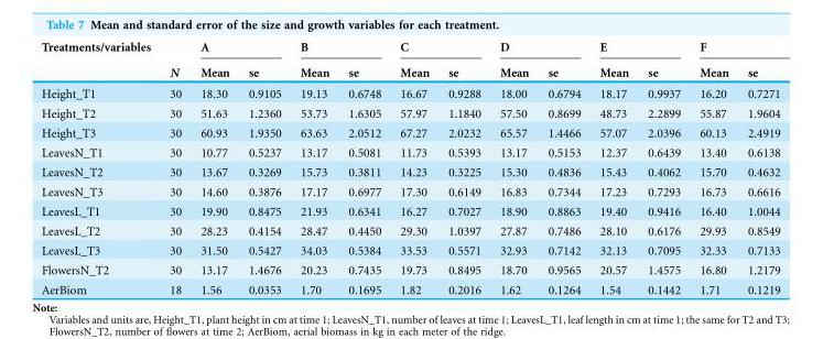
<table><thead><tr><td rowspan="2">Treatments/variables</td><td rowspan="2">N</td><td colspan="2">A</td><td colspan="2">B</td><td colspan="2">C</td><td colspan="2">D</td><td colspan="2">E</td><td colspan="2">F</td></tr><tr><td>Mean</td><td>se</td><td>Mean</td><td>se</td><td>Mean</td><td>se</td><td>Mean</td><td>se</td><td>Mean</td><td>se</td><td>Mean</td><td>se</td></tr></thead><tbody><tr><td>Height_T1</td><td>30</td><td>18.30</td><td>0.9105</td><td>19.13</td><td>0.6748</td><td>16.67</td><td>0.9288</td><td>18.00</td><td>0.6794</td><td>18.17</td><td>0.9937</td><td>16.20</td><td>0.7271</td></tr><tr><td>Height_T2</td><td>30</td><td>51.63</td><td>1.2360</td><td>53.73</td><td>1.6305</td><td>57.97</td><td>1.1840</td><td>57.50</td><td>0.8699</td><td>48.73</td><td>2.2899</td><td>55.87</td><td>1.9604</td></tr><tr><td>Height_T3</td><td>30</td><td>60.93</td><td>1.9350</td><td>63.63</td><td>2.0512</td><td>67.27</td><td>2.0232</td><td>65.57</td><td>1.4466</td><td>57.07</td><td>2.0396</td><td>60.13</td><td>2.4919</td></tr><tr><td>LeavesN_T1</td><td>30</td><td>10.77</td><td>0.5237</td><td>13.17</td><td>0.5081</td><td>11.73</td><td>0.5393</td><td>13.17</td><td>0.5153</td><td>12.37</td><td>0.6439</td><td>13.40</td><td>0.6138</td></tr><tr><td>LeavesN_T2</td><td>30</td><td>13.67</td><td>0.3269</td><td>15.73</td><td>0.3811</td><td>14.23</td><td>0.3225</td><td>15.30</td><td>0.4836</td><td>15.43</td><td>0.4062</td><td>15.70</td><td>0.4632</td></tr><tr><td>LeavesN_T3</td><td>30</td><td>14.60</td><td>0.3876</td><td>17.17</td><td>0.6977</td><td>17.30</td><td>0.6149</td><td>16.83</td><td>0.7344</td><td>17.23</td><td>0.7293</td><td>16.73</td><td>0.6616</td></tr><tr><td>LeavesL_T1</td><td>30</td><td>19.90</td><td>0.8475</td><td>21.93</td><td>0.6341</td><td>16.27</td><td>0.7027</td><td>18.90</td><td>0.8863</td><td>19.40</td><td>0.9416</td><td>16.40</td><td>1.0044</td></tr><tr><td>LeavesL_T2</td><td>30</td><td>28.23</td><td>0.4154</td><td>28.47</td><td>0.4450</td><td>29.30</td><td>1.0397</td><td>27.87</td><td>0.7486</td><td>28.10</td><td>0.6176</td><td>29.93</td><td>0.8549</td></tr><tr><td>LeavesL_T3</td><td>30</td><td>31.50</td><td>0.5427</td><td>34.03</td><td>0.5384</td><td>33.53</td><td>0.5571</td><td>32.93</td><td>0.7142</td><td>32.13</td><td>0.7095</td><td>32.33</td><td>0.7133</td></tr><tr><td>FlowersN_T2</td><td>30</td><td>13.17</td><td>1.4676</td><td>20.23</td><td>0.7435</td><td>19.73</td><td>0.8495</td><td>18.70</td><td>0.9565</td><td>20.57</td><td>1.4575</td><td>16.80</td><td>1.2179</td></tr><tr><td>AerBiom</td><td>18</td><td>1.56</td><td>0.0353</td><td>1.70</td><td>0.1695</td><td>1.82</td><td>0.2016</td><td>1.62</td><td>0.1264</td><td>1.54</td><td>0.1442</td><td>1.71</td><td>0.1219</td></tr></tbody></table>